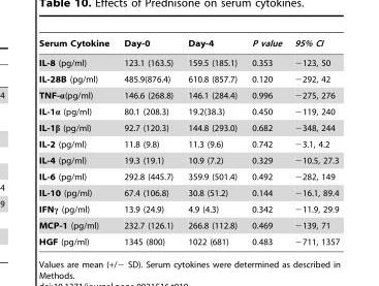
<table><thead><tr><td>Serum Cytokine</td><td>Day-0</td><td>Day-4</td><td>P value</td><td>95% CI</td></tr></thead><tbody><tr><td>IL-8 (pg/ml)</td><td>123.1 (163.5)</td><td>159.5 (185.1)</td><td>0.353</td><td>−123, 50</td></tr><tr><td>IL-28B (pg/ml)</td><td>485.9(876.4)</td><td>610.8 (857.7)</td><td>0.120</td><td>−292, 42</td></tr><tr><td>TNF-α(pg/ml)</td><td>146.6 (268.8)</td><td>146.1 (284.4)</td><td>0.996</td><td>−275, 276</td></tr><tr><td>IL-1α (pg/ml)</td><td>80.1 (208.3)</td><td>19.2(38.3)</td><td>0.450</td><td>−119, 240</td></tr><tr><td>IL-1β (pg/ml)</td><td>92.7 (120.3)</td><td>144.8 (293.0)</td><td>0.682</td><td>−348, 244</td></tr><tr><td>IL-2 (pg/ml)</td><td>11.8 (9.8)</td><td>11.3 (9.6)</td><td>0.742</td><td>−3.1, 4.2</td></tr><tr><td>IL-4 (pg/ml)</td><td>19.3 (19.1)</td><td>10.9 (7.2)</td><td>0.329</td><td>−10.5, 27.3</td></tr><tr><td>IL-6 (pg/ml)</td><td>292.8 (445.7)</td><td>359.9 (501.4)</td><td>0.492</td><td>−282, 149</td></tr><tr><td>IL-10 (pg/ml)</td><td>67.4 (106.8)</td><td>30.8 (51.2)</td><td>0.144</td><td>−16.1, 89.4</td></tr><tr><td>IFNγ (pg/ml)</td><td>13.9 (24.9)</td><td>4.9 (4.3)</td><td>0.342</td><td>−11.9, 29.9</td></tr><tr><td>MCP-1 (pg/ml)</td><td>232.7 (126.1)</td><td>266.8 (112.8)</td><td>0.469</td><td>−139, 71</td></tr><tr><td>HGF (pg/ml)</td><td>1345 (800)</td><td>1022 (681)</td><td>0.483</td><td>−711, 1357</td></tr></tbody></table>